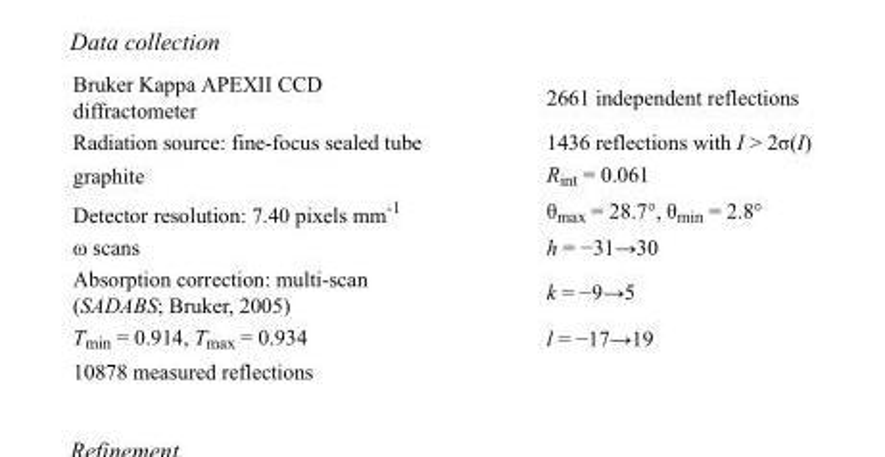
<table><tbody><tr><td>Bruker Kappa APEXII CCD diffractometer</td><td>2661 independent reflections</td></tr><tr><td>Radiation source: fine-focus sealed tube</td><td>1436 reflections with I &gt; 2σ(I)</td></tr><tr><td>graphite</td><td>R<sub>int</sub> = 0.061</td></tr><tr><td>Detector resolution: 7.40 pixels mm<sup>-1</sup></td><td>θ<sub>max</sub> = 28.7°, θ<sub>min</sub> = 2.8°</td></tr><tr><td>ω scans</td><td>h = −31→30</td></tr><tr><td>Absorption correction: multi-scan (SADABS; Bruker, 2005)</td><td>k = −9→5</td></tr><tr><td>T<sub>min</sub> = 0.914, T<sub>max</sub> = 0.934</td><td>l = −17→19</td></tr><tr><td>10878 measured reflections</td><td></td></tr></tbody></table>